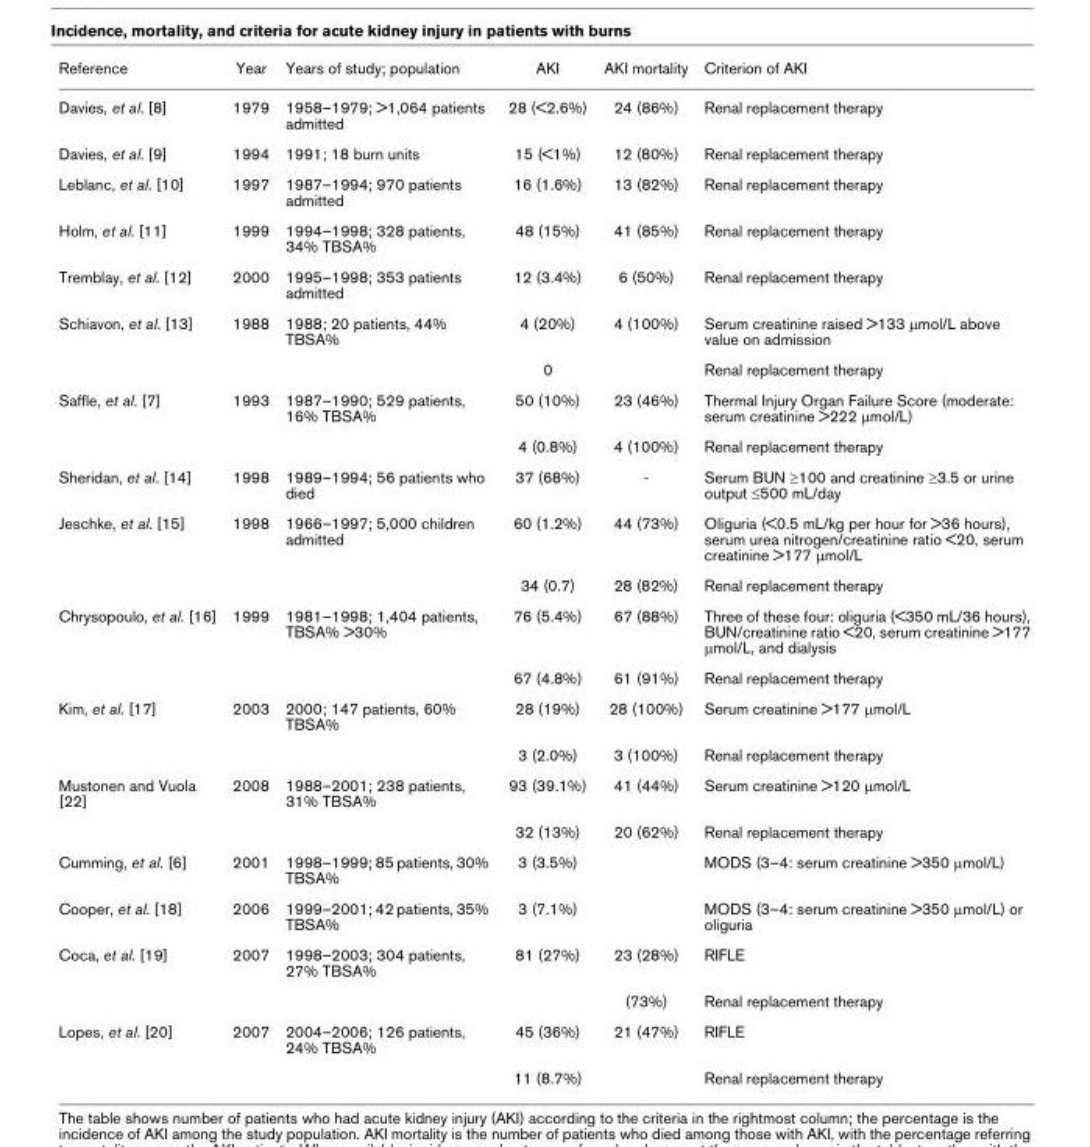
<table><thead><tr><td>Reference</td><td>Year</td><td>Years of study; population</td><td>AKI</td><td>AKI mortality</td><td>Criterion of AKI</td></tr></thead><tbody><tr><td>Davies, et al. [8]</td><td>1979</td><td>1958–1979; &gt;1,064 patients admitted</td><td>28 (&lt;2.6%)</td><td>24 (86%)</td><td>Renal replacement therapy</td></tr><tr><td>Davies, et al. [9]</td><td>1994</td><td>1991; 18 burn units</td><td>15 (&lt;1%)</td><td>12 (80%)</td><td>Renal replacement therapy</td></tr><tr><td>Leblanc, et al. [10]</td><td>1997</td><td>1987–1994; 970 patients admitted</td><td>16 (1.6%)</td><td>13 (82%)</td><td>Renal replacement therapy</td></tr><tr><td>Holm, et al. [11]</td><td>1999</td><td>1994–1998; 328 patients, 34% TBSA%</td><td>48 (15%)</td><td>41 (85%)</td><td>Renal replacement therapy</td></tr><tr><td>Tremblay, et al. [12]</td><td>2000</td><td>1995–1998; 353 patients admitted</td><td>12 (3.4%)</td><td>6 (50%)</td><td>Renal replacement therapy</td></tr><tr><td rowspan="2">Schiavon, et al. [13]</td><td>1988</td><td>1988; 20 patients, 44% TBSA%</td><td>4 (20%)</td><td>4 (100%)</td><td>Serum creatinine raised &gt;133 μmol/L above value on admission</td></tr><tr><td></td><td></td><td>0</td><td></td><td>Renal replacement therapy</td></tr><tr><td rowspan="2">Saffle, et al. [7]</td><td>1993</td><td>1987–1990; 529 patients, 16% TBSA%</td><td>50 (10%)</td><td>23 (46%)</td><td>Thermal Injury Organ Failure Score (moderate: serum creatinine &gt;222 μmol/L)</td></tr><tr><td></td><td></td><td>4 (0.8%)</td><td>4 (100%)</td><td>Renal replacement therapy</td></tr><tr><td>Sheridan, et al. [14]</td><td>1998</td><td>1989–1994; 56 patients who died</td><td>37 (68%)</td><td>-</td><td>Serum BUN ≥100 and creatinine ≥3.5 or urine output ≤500 mL/day</td></tr><tr><td rowspan="2">Jeschke, et al. [15]</td><td>1998</td><td>1966–1997; 5,000 children admitted</td><td>60 (1.2%)</td><td>44 (73%)</td><td>Oliguria (&lt;0.5 mL/kg per hour for &gt;36 hours), serum urea nitrogen/creatinine ratio &lt;20, serum creatinine &gt;177 μmol/L</td></tr><tr><td></td><td></td><td>34 (0.7)</td><td>28 (82%)</td><td>Renal replacement therapy</td></tr><tr><td rowspan="2">Chrysopoulo, et al. [16]</td><td>1999</td><td>1981–1998; 1,404 patients, TBSA% &gt;30%</td><td>76 (5.4%)</td><td>67 (88%)</td><td>Three of these four: oliguria (&lt;350 mL/36 hours), BUN/creatinine ratio &lt;20, serum creatinine &gt;177 μmol/L, and dialysis</td></tr><tr><td></td><td></td><td>67 (4.8%)</td><td>61 (91%)</td><td>Renal replacement therapy</td></tr><tr><td rowspan="2">Kim, et al. [17]</td><td>2003</td><td>2000; 147 patients, 60% TBSA%</td><td>28 (19%)</td><td>28 (100%)</td><td>Serum creatinine &gt;177 μmol/L</td></tr><tr><td></td><td></td><td>3 (2.0%)</td><td>3 (100%)</td><td>Renal replacement therapy</td></tr><tr><td rowspan="2">Mustonen and Vuola [22]</td><td>2008</td><td>1988–2001; 238 patients, 31% TBSA%</td><td>93 (39.1%)</td><td>41 (44%)</td><td>Serum creatinine &gt;120 μmol/L</td></tr><tr><td></td><td></td><td>32 (13%)</td><td>20 (62%)</td><td>Renal replacement therapy</td></tr><tr><td>Cumming, et al. [6]</td><td>2001</td><td>1998–1999; 85 patients, 30% TBSA%</td><td>3 (3.5%)</td><td></td><td>MODS (3–4: serum creatinine &gt;350 μmol/L)</td></tr><tr><td>Cooper, et al. [18]</td><td>2006</td><td>1999–2001; 42 patients, 35% TBSA%</td><td>3 (7.1%)</td><td></td><td>MODS (3–4: serum creatinine &gt;350 μmol/L) or oliguria</td></tr><tr><td rowspan="2">Coca, et al. [19]</td><td>2007</td><td>1998–2003; 304 patients, 27% TBSA%</td><td>81 (27%)</td><td>23 (28%)</td><td>RIFLE</td></tr><tr><td></td><td></td><td></td><td>(73%)</td><td>Renal replacement therapy</td></tr><tr><td rowspan="2">Lopes, et al. [20]</td><td>2007</td><td>2004–2006; 126 patients, 24% TBSA%</td><td>45 (36%)</td><td>21 (47%)</td><td>RIFLE</td></tr><tr><td></td><td></td><td>11 (8.7%)</td><td></td><td>Renal replacement therapy</td></tr></tbody></table>